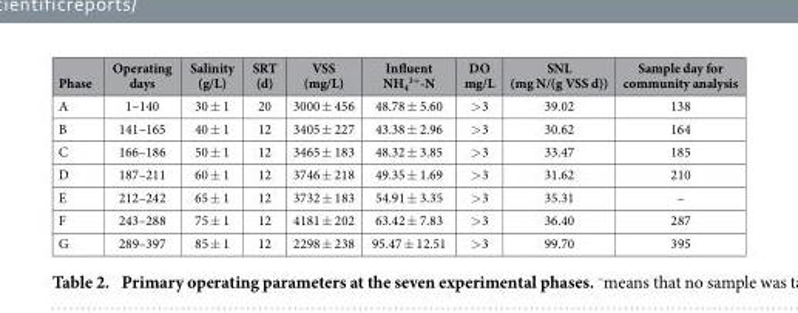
<table><thead><tr><td>Phase</td><td>Operating days</td><td>Salinity (g/L)</td><td>SRT (d)</td><td>VSS (mg/L)</td><td>Influent NH<sub>4</sub> <sup>3+</sup>-N</td><td>DO mg/L</td><td>SNL (mg N/(g VSS d))</td><td>Sample day for community analysis</td></tr></thead><tbody><tr><td>A</td><td>1–140</td><td>30 ± 1</td><td>20</td><td>3000 ± 456</td><td>48.78 ± 5.60</td><td>&gt; 3</td><td>39.02</td><td>138</td></tr><tr><td>B</td><td>141–165</td><td>40 ± 1</td><td>12</td><td>3405 ± 227</td><td>43.38 ± 2.96</td><td>&gt; 3</td><td>30.62</td><td>164</td></tr><tr><td>C</td><td>166–186</td><td>50 ± 1</td><td>12</td><td>3465 ± 183</td><td>48.32 ± 3.85</td><td>&gt; 3</td><td>33.47</td><td>185</td></tr><tr><td>D</td><td>187–211</td><td>60 ± 1</td><td>12</td><td>3746 ± 218</td><td>49.35 ± 1.69</td><td>&gt; 3</td><td>31.62</td><td>210</td></tr><tr><td>E</td><td>212–242</td><td>65 ± 1</td><td>12</td><td>3732 ± 183</td><td>54.91 ± 3.35</td><td>&gt; 3</td><td>35.31</td><td>–</td></tr><tr><td>F</td><td>243–288</td><td>75 ± 1</td><td>12</td><td>4181 ± 202</td><td>63.42 ± 7.83</td><td>&gt; 3</td><td>36.40</td><td>287</td></tr><tr><td>G</td><td>289–397</td><td>85 ± 1</td><td>12</td><td>2298 ± 238</td><td>95.47 ± 12.51</td><td>&gt; 3</td><td>99.70</td><td>395</td></tr></tbody></table>